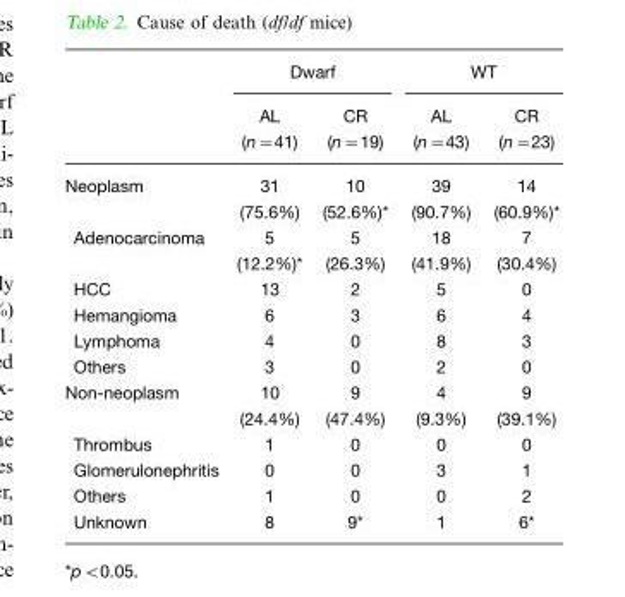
<table><thead><tr><td rowspan="2"></td><td colspan="2">Dwarf</td><td colspan="2">WT</td></tr><tr><td>AL (n=41)</td><td>CR (n=19)</td><td>AL (n=43)</td><td>CR (n=23)</td></tr></thead><tbody><tr><td>Neoplasm</td><td>31 (75.6%)</td><td>10 (52.6%)*</td><td>39 (90.7%)</td><td>14 (60.9%)*</td></tr><tr><td>Adenocarcinoma</td><td>5 (12.2%)*</td><td>5 (26.3%)</td><td>18 (41.9%)</td><td>7 (30.4%)</td></tr><tr><td>HCC</td><td>13</td><td>2</td><td>5</td><td>0</td></tr><tr><td>Hemangioma</td><td>6</td><td>3</td><td>6</td><td>4</td></tr><tr><td>Lymphoma</td><td>4</td><td>0</td><td>8</td><td>3</td></tr><tr><td>Others</td><td>3</td><td>0</td><td>2</td><td>0</td></tr><tr><td>Non-neoplasm</td><td>10 (24.4%)</td><td>9 (47.4%)</td><td>4 (9.3%)</td><td>9 (39.1%)</td></tr><tr><td>Thrombus</td><td>1</td><td>0</td><td>0</td><td>0</td></tr><tr><td>Glomerulonephritis</td><td>0</td><td>0</td><td>3</td><td>1</td></tr><tr><td>Others</td><td>1</td><td>0</td><td>0</td><td>2</td></tr><tr><td>Unknown</td><td>8</td><td>9*</td><td>1</td><td>6*</td></tr></tbody></table>